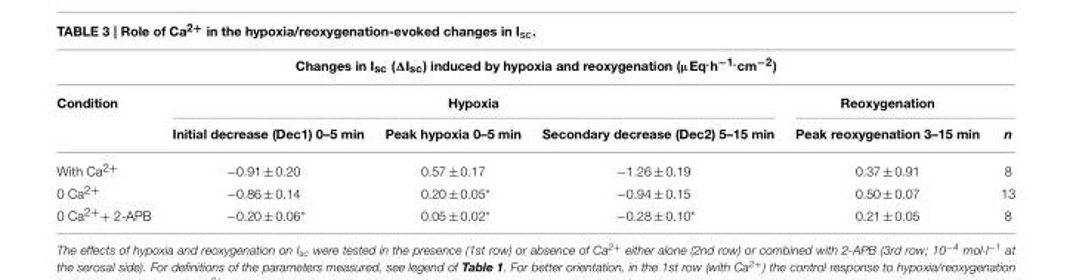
<table><thead><tr><td colspan="6">Changes in Isc (ΔIsc) induced by hypoxia and reoxygenation (µEq.h−1.cm−2)</td></tr><tr><td rowspan="2">Condition</td><td colspan="3">Hypoxia</td><td colspan="2">Reoxygenation</td></tr><tr><td>Initial decrease (Dec1) 0–5 min</td><td>Peak hypoxia 0–5 min</td><td>Secondary decrease (Dec2) 5–15 min</td><td>Peak reoxygenation 3–15 min</td><td>n</td></tr></thead><tbody><tr><td>With Ca<sup>2+</sup></td><td>−0.91 ± 0.20</td><td>0.57 ± 0.17</td><td>−1.26 ± 0.19</td><td>0.37 ± 0.91</td><td>8</td></tr><tr><td>0 Ca<sup>2+</sup></td><td>−0.86 ± 0.14</td><td>0.20 ± 0.05*</td><td>−0.94 ± 0.15</td><td>0.50 ± 0.07</td><td>13</td></tr><tr><td>0 Ca<sup>2+</sup>+ 2-APB</td><td>−0.20 ± 0.06*</td><td>0.05 ± 0.02*</td><td>−0.28 ± 0.10*</td><td>0.21 ± 0.05</td><td>8</td></tr></tbody></table>